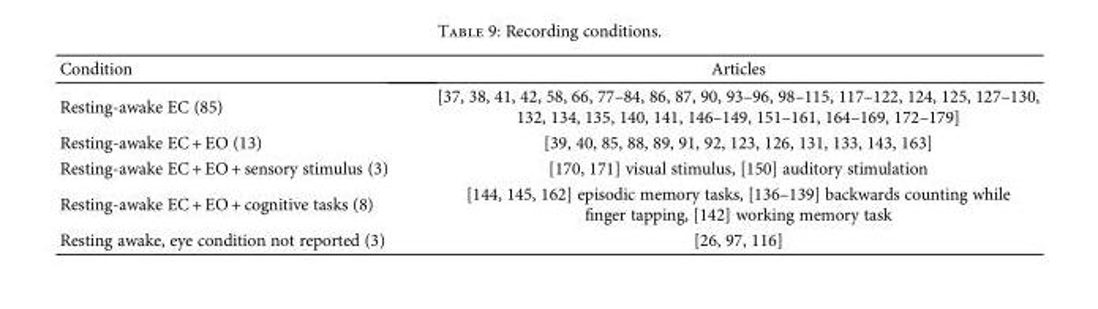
<table><thead><tr><td>Condition</td><td>Articles</td></tr></thead><tbody><tr><td>Resting-awake EC (85)</td><td>[37, 38, 41, 42, 58, 66, 77–84, 86, 87, 90, 93–96, 98–115, 117–122, 124, 125, 127–130, 132, 134, 135, 140, 141, 146–149, 151–161, 164–169, 172–179]</td></tr><tr><td>Resting-awake EC + EO (13)</td><td>[39, 40, 85, 88, 89, 91, 92, 123, 126, 131, 133, 143, 163]</td></tr><tr><td>Resting-awake EC + EO + sensory stimulus (3)</td><td>[170, 171] visual stimulus, [150] auditory stimulation</td></tr><tr><td>Resting-awake EC + EO + cognitive tasks (8)</td><td>[144, 145, 162] episodic memory tasks, [136–139] backwards counting while finger tapping, [142] working memory task</td></tr><tr><td>Resting awake, eye condition not reported (3)</td><td>[26, 97, 116]</td></tr></tbody></table>